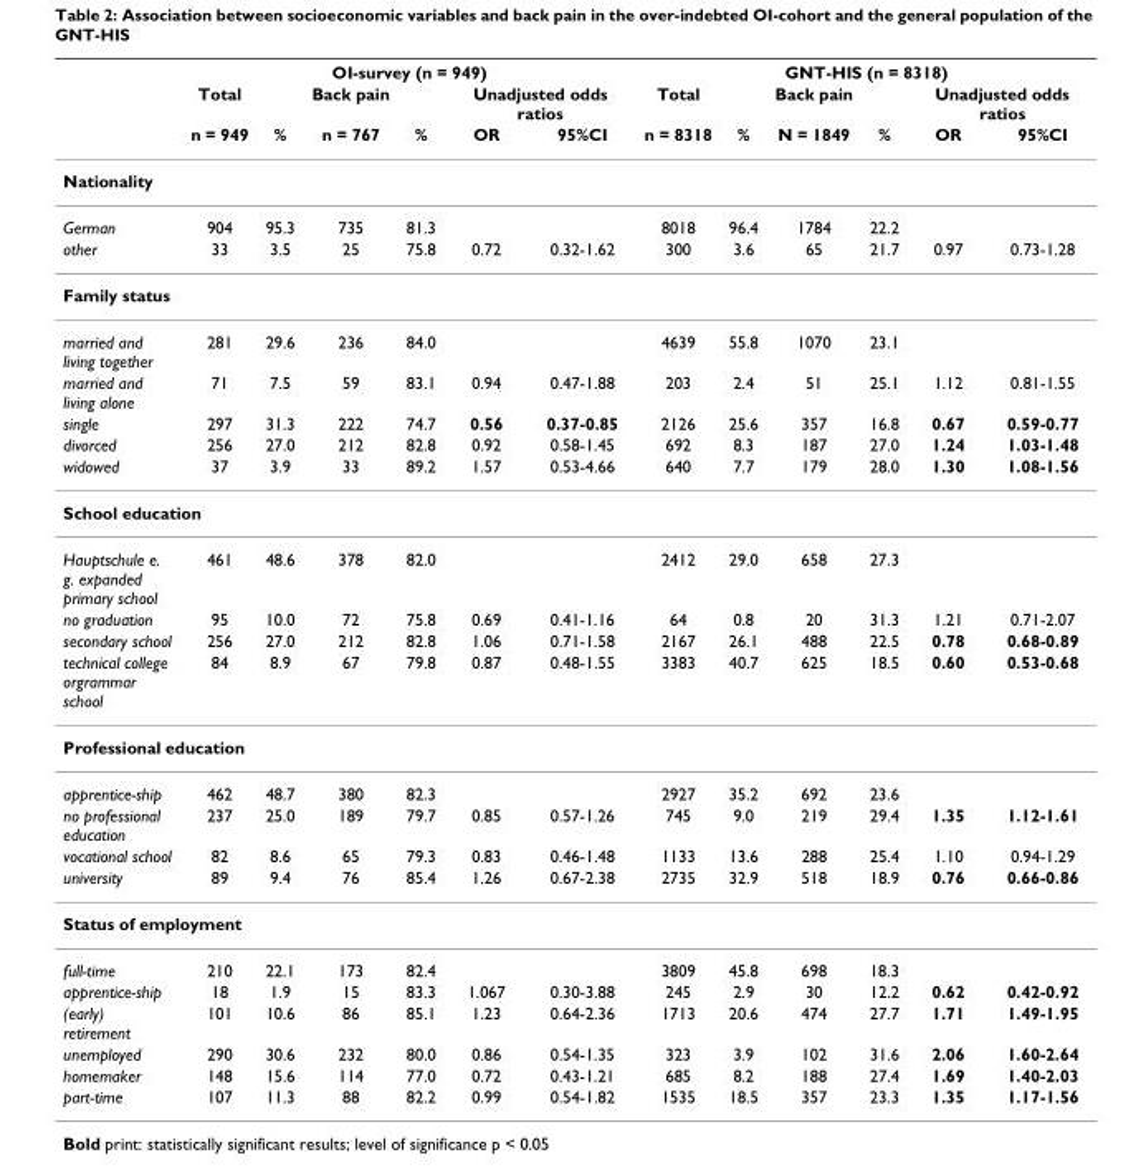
<table><thead><tr><td rowspan="3"></td><td colspan="6">OI-survey (n = 949)</td><td colspan="6">GNT-HIS (n = 8318)</td></tr><tr><td rowspan="2">Total n = 949</td><td rowspan="2">%</td><td rowspan="2">Back pain n = 767</td><td rowspan="2">%</td><td colspan="2">Unadjusted odds ratios</td><td rowspan="2">Total n = 8318</td><td rowspan="2">%</td><td rowspan="2">Back pain N = 1849</td><td rowspan="2">%</td><td colspan="2">Unadjusted odds ratios</td></tr><tr><td>OR</td><td>95%CI</td><td>OR</td><td>95%CI</td></tr></thead><tbody><tr><td colspan="13">Nationality</td></tr><tr><td>German</td><td>904</td><td>95.3</td><td>735</td><td>81.3</td><td></td><td></td><td>8018</td><td>96.4</td><td>1784</td><td>22.2</td><td></td><td></td></tr><tr><td>other</td><td>33</td><td>3.5</td><td>25</td><td>75.8</td><td>0.72</td><td>0.32-1.62</td><td>300</td><td>3.6</td><td>65</td><td>21.7</td><td>0.97</td><td>0.73-1.28</td></tr><tr><td colspan="13">Family status</td></tr><tr><td>married and living together</td><td>281</td><td>29.6</td><td>236</td><td>84.0</td><td></td><td></td><td>4639</td><td>55.8</td><td>1070</td><td>23.1</td><td></td><td></td></tr><tr><td>married and living alone</td><td>71</td><td>7.5</td><td>59</td><td>83.1</td><td>0.94</td><td>0.47-1.88</td><td>203</td><td>2.4</td><td>51</td><td>25.1</td><td>1.12</td><td>0.81-1.55</td></tr><tr><td>single</td><td>297</td><td>31.3</td><td>222</td><td>74.7</td><td>0.56</td><td>0.37-0.85</td><td>2126</td><td>25.6</td><td>357</td><td>16.8</td><td>0.67</td><td>0.59-0.77</td></tr><tr><td>divorced</td><td>256</td><td>27.0</td><td>212</td><td>82.8</td><td>0.92</td><td>0.58-1.45</td><td>692</td><td>8.3</td><td>187</td><td>27.0</td><td>1.24</td><td>1.03-1.48</td></tr><tr><td>widowed</td><td>37</td><td>3.9</td><td>33</td><td>89.2</td><td>1.57</td><td>0.53-4.66</td><td>640</td><td>7.7</td><td>179</td><td>28.0</td><td>1.30</td><td>1.08-1.56</td></tr><tr><td colspan="13">School education</td></tr><tr><td>Hauptschule e. g. expanded primary school</td><td>461</td><td>48.6</td><td>378</td><td>82.0</td><td></td><td></td><td>2412</td><td>29.0</td><td>658</td><td>27.3</td><td></td><td></td></tr><tr><td>no graduation</td><td>95</td><td>10.0</td><td>72</td><td>75.8</td><td>0.69</td><td>0.41-1.16</td><td>64</td><td>0.8</td><td>20</td><td>31.3</td><td>1.21</td><td>0.71-2.07</td></tr><tr><td>secondary school</td><td>256</td><td>27.0</td><td>212</td><td>82.8</td><td>1.06</td><td>0.71-1.58</td><td>2167</td><td>26.1</td><td>488</td><td>22.5</td><td>0.78</td><td>0.68-0.89</td></tr><tr><td>technical college orgrammar school</td><td>84</td><td>8.9</td><td>67</td><td>79.8</td><td>0.87</td><td>0.48-1.55</td><td>3383</td><td>40.7</td><td>625</td><td>18.5</td><td>0.60</td><td>0.53-0.68</td></tr><tr><td colspan="13">Professional education</td></tr><tr><td>apprentice-ship</td><td>462</td><td>48.7</td><td>380</td><td>82.3</td><td></td><td></td><td>2927</td><td>35.2</td><td>692</td><td>23.6</td><td></td><td></td></tr><tr><td>no professional education</td><td>237</td><td>25.0</td><td>189</td><td>79.7</td><td>0.85</td><td>0.57-1.26</td><td>745</td><td>9.0</td><td>219</td><td>29.4</td><td>1.35</td><td>1.12-1.61</td></tr><tr><td>vocational school</td><td>82</td><td>8.6</td><td>65</td><td>79.3</td><td>0.83</td><td>0.46-1.48</td><td>1133</td><td>13.6</td><td>288</td><td>25.4</td><td>1.10</td><td>0.94-1.29</td></tr><tr><td>university</td><td>89</td><td>9.4</td><td>76</td><td>85.4</td><td>1.26</td><td>0.67-2.38</td><td>2735</td><td>32.9</td><td>518</td><td>18.9</td><td>0.76</td><td>0.66-0.86</td></tr><tr><td colspan="13">Status of employment</td></tr><tr><td>full-time</td><td>210</td><td>22.1</td><td>173</td><td>82.4</td><td></td><td></td><td>3809</td><td>45.8</td><td>698</td><td>18.3</td><td></td><td></td></tr><tr><td>apprentice-ship</td><td>18</td><td>1.9</td><td>15</td><td>83.3</td><td>1.067</td><td>0.30-3.88</td><td>245</td><td>2.9</td><td>30</td><td>12.2</td><td>0.62</td><td>0.42-0.92</td></tr><tr><td>(early) retirement</td><td>101</td><td>10.6</td><td>86</td><td>85.1</td><td>1.23</td><td>0.64-2.36</td><td>1713</td><td>20.6</td><td>474</td><td>27.7</td><td>1.71</td><td>1.49-1.95</td></tr><tr><td>unemployed</td><td>290</td><td>30.6</td><td>232</td><td>80.0</td><td>0.86</td><td>0.54-1.35</td><td>323</td><td>3.9</td><td>102</td><td>31.6</td><td>2.06</td><td>1.60-2.64</td></tr><tr><td>homemaker</td><td>148</td><td>15.6</td><td>114</td><td>77.0</td><td>0.72</td><td>0.43-1.21</td><td>685</td><td>8.2</td><td>188</td><td>27.4</td><td>1.69</td><td>1.40-2.03</td></tr><tr><td>part-time</td><td>107</td><td>11.3</td><td>88</td><td>82.2</td><td>0.99</td><td>0.54-1.82</td><td>1535</td><td>18.5</td><td>357</td><td>23.3</td><td>1.35</td><td>1.17-1.56</td></tr></tbody></table>